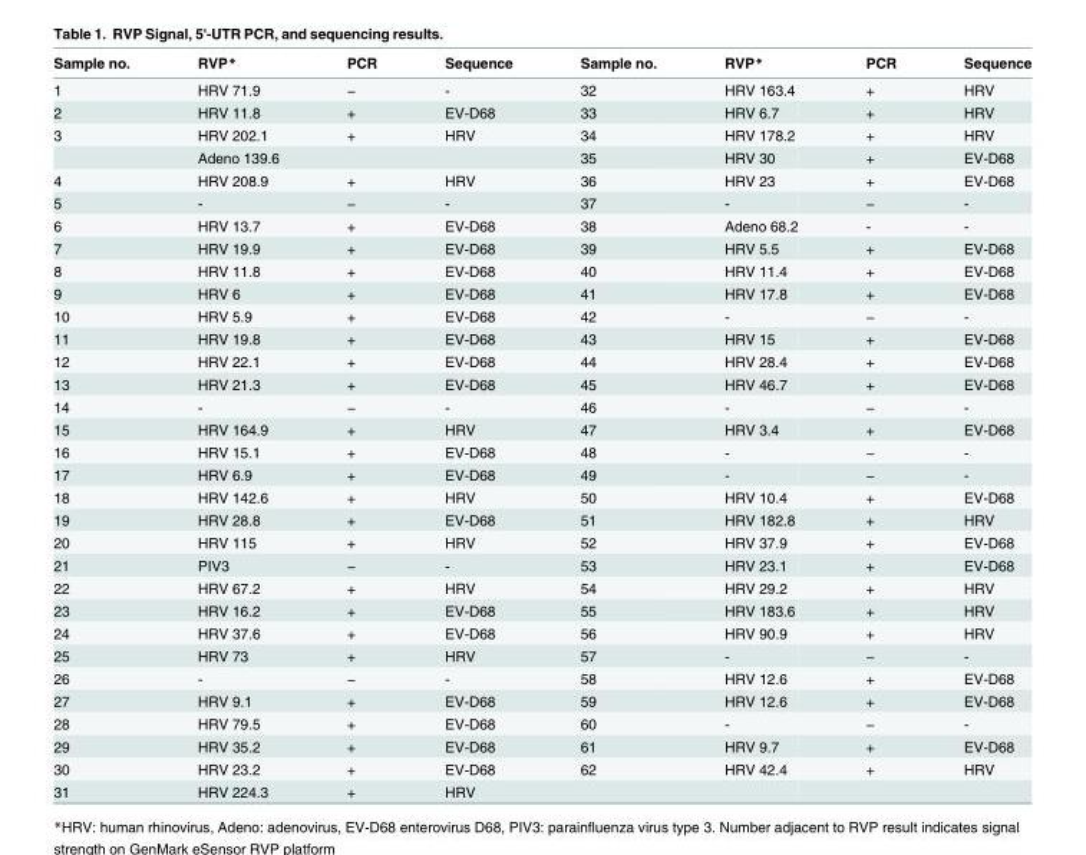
<table><thead><tr><td>Sample no.</td><td>RVP*</td><td>PCR</td><td>Sequence</td><td>Sample no.</td><td>RVP*</td><td>PCR</td><td>Sequence</td></tr></thead><tbody><tr><td>1</td><td>HRV 71.9</td><td>−</td><td>-</td><td>32</td><td>HRV 163.4</td><td>+</td><td>HRV</td></tr><tr><td>2</td><td>HRV 11.8</td><td>+</td><td>EV-D68</td><td>33</td><td>HRV 6.7</td><td>+</td><td>HRV</td></tr><tr><td rowspan="2">3</td><td>HRV 202.1</td><td>+</td><td>HRV</td><td>34</td><td>HRV 178.2</td><td>+</td><td>HRV</td></tr><tr><td>Adeno 139.6</td><td></td><td></td><td>35</td><td>HRV 30</td><td>+</td><td>EV-D68</td></tr><tr><td>4</td><td>HRV 208.9</td><td>+</td><td>HRV</td><td>36</td><td>HRV 23</td><td>+</td><td>EV-D68</td></tr><tr><td>5</td><td>-</td><td>−</td><td>-</td><td>37</td><td>-</td><td>−</td><td>-</td></tr><tr><td>6</td><td>HRV 13.7</td><td>+</td><td>EV-D68</td><td>38</td><td>Adeno 68.2</td><td>-</td><td>-</td></tr><tr><td>7</td><td>HRV 19.9</td><td>+</td><td>EV-D68</td><td>39</td><td>HRV 5.5</td><td>+</td><td>EV-D68</td></tr><tr><td>8</td><td>HRV 11.8</td><td>+</td><td>EV-D68</td><td>40</td><td>HRV 11.4</td><td>+</td><td>EV-D68</td></tr><tr><td>9</td><td>HRV 6</td><td>+</td><td>EV-D68</td><td>41</td><td>HRV 17.8</td><td>+</td><td>EV-D68</td></tr><tr><td>10</td><td>HRV 5.9</td><td>+</td><td>EV-D68</td><td>42</td><td>-</td><td>−</td><td>-</td></tr><tr><td>11</td><td>HRV 19.8</td><td>+</td><td>EV-D68</td><td>43</td><td>HRV 15</td><td>+</td><td>EV-D68</td></tr><tr><td>12</td><td>HRV 22.1</td><td>+</td><td>EV-D68</td><td>44</td><td>HRV 28.4</td><td>+</td><td>EV-D68</td></tr><tr><td>13</td><td>HRV 21.3</td><td>+</td><td>EV-D68</td><td>45</td><td>HRV 46.7</td><td>+</td><td>EV-D68</td></tr><tr><td>14</td><td>-</td><td>−</td><td>-</td><td>46</td><td>-</td><td>−</td><td>-</td></tr><tr><td>15</td><td>HRV 164.9</td><td>+</td><td>HRV</td><td>47</td><td>HRV 3.4</td><td>+</td><td>EV-D68</td></tr><tr><td>16</td><td>HRV 15.1</td><td>+</td><td>EV-D68</td><td>48</td><td>-</td><td>−</td><td>-</td></tr><tr><td>17</td><td>HRV 6.9</td><td>+</td><td>EV-D68</td><td>49</td><td>-</td><td>−</td><td>-</td></tr><tr><td>18</td><td>HRV 142.6</td><td>+</td><td>HRV</td><td>50</td><td>HRV 10.4</td><td>+</td><td>EV-D68</td></tr><tr><td>19</td><td>HRV 28.8</td><td>+</td><td>EV-D68</td><td>51</td><td>HRV 182.8</td><td>+</td><td>HRV</td></tr><tr><td>20</td><td>HRV 115</td><td>+</td><td>HRV</td><td>52</td><td>HRV 37.9</td><td>+</td><td>EV-D68</td></tr><tr><td>21</td><td>PIV3</td><td>−</td><td>-</td><td>53</td><td>HRV 23.1</td><td>+</td><td>EV-D68</td></tr><tr><td>22</td><td>HRV 67.2</td><td>+</td><td>HRV</td><td>54</td><td>HRV 29.2</td><td>+</td><td>HRV</td></tr><tr><td>23</td><td>HRV 16.2</td><td>+</td><td>EV-D68</td><td>55</td><td>HRV 183.6</td><td>+</td><td>HRV</td></tr><tr><td>24</td><td>HRV 37.6</td><td>+</td><td>EV-D68</td><td>56</td><td>HRV 90.9</td><td>+</td><td>HRV</td></tr><tr><td>25</td><td>HRV 73</td><td>+</td><td>HRV</td><td>57</td><td>-</td><td>−</td><td>-</td></tr><tr><td>26</td><td>-</td><td>−</td><td>-</td><td>58</td><td>HRV 12.6</td><td>+</td><td>EV-D68</td></tr><tr><td>27</td><td>HRV 9.1</td><td>+</td><td>EV-D68</td><td>59</td><td>HRV 12.6</td><td>+</td><td>EV-D68</td></tr><tr><td>28</td><td>HRV 79.5</td><td>+</td><td>EV-D68</td><td>60</td><td>-</td><td>−</td><td>-</td></tr><tr><td>29</td><td>HRV 35.2</td><td>+</td><td>EV-D68</td><td>61</td><td>HRV 9.7</td><td>+</td><td>EV-D68</td></tr><tr><td>30</td><td>HRV 23.2</td><td>+</td><td>EV-D68</td><td>62</td><td>HRV 42.4</td><td>+</td><td>HRV</td></tr><tr><td>31</td><td>HRV 224.3</td><td>+</td><td>HRV</td><td></td><td></td><td></td><td></td></tr></tbody></table>